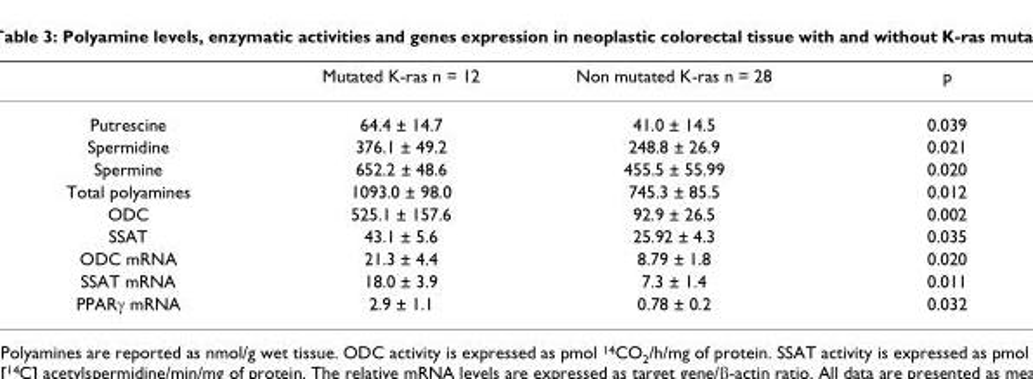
<table><thead><tr><td></td><td>Mutated K-ras n = 12</td><td>Non mutated K-ras n = 28</td><td>p</td></tr></thead><tbody><tr><td>Putrescine</td><td>64.4 ± 14.7</td><td>41.0 ± 14.5</td><td>0.039</td></tr><tr><td>Spermidine</td><td>376.1 ± 49.2</td><td>248.8 ± 26.9</td><td>0.021</td></tr><tr><td>Spermine</td><td>652.2 ± 48.6</td><td>455.5 ± 55.99</td><td>0.020</td></tr><tr><td>Total polyamines</td><td>1093.0 ± 98.0</td><td>745.3 ± 85.5</td><td>0.012</td></tr><tr><td>ODC</td><td>525.1 ± 157.6</td><td>92.9 ± 26.5</td><td>0.002</td></tr><tr><td>SSAT</td><td>43.1 ± 5.6</td><td>25.92 ± 4.3</td><td>0.035</td></tr><tr><td>ODC mRNA</td><td>21.3 ± 4.4</td><td>8.79 ± 1.8</td><td>0.020</td></tr><tr><td>SSAT mRNA</td><td>18.0 ± 3.9</td><td>7.3 ± 1.4</td><td>0.011</td></tr><tr><td>PPARγ mRNA</td><td>2.9 ± 1.1</td><td>0.78 ± 0.2</td><td>0.032</td></tr></tbody></table>